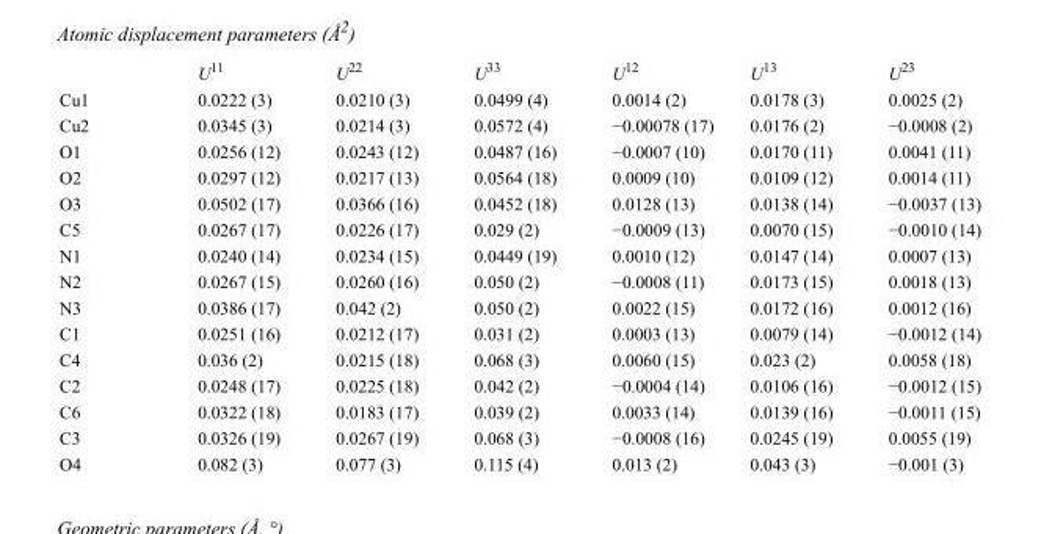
<table><thead><tr><td></td><td>U<sup>11</sup></td><td>U<sup>22</sup></td><td>U<sup>33</sup></td><td>U<sup>12</sup></td><td>U<sup>13</sup></td><td>U<sup>23</sup></td></tr></thead><tbody><tr><td>Cu1</td><td>0.0222 (3)</td><td>0.0210 (3)</td><td>0.0499 (4)</td><td>0.0014 (2)</td><td>0.0178 (3)</td><td>0.0025 (2)</td></tr><tr><td>Cu2</td><td>0.0345 (3)</td><td>0.0214 (3)</td><td>0.0572 (4)</td><td>−0.00078 (17)</td><td>0.0176 (2)</td><td>−0.0008 (2)</td></tr><tr><td>O1</td><td>0.0256 (12)</td><td>0.0243 (12)</td><td>0.0487 (16)</td><td>−0.0007 (10)</td><td>0.0170 (11)</td><td>0.0041 (11)</td></tr><tr><td>O2</td><td>0.0297 (12)</td><td>0.0217 (13)</td><td>0.0564 (18)</td><td>0.0009 (10)</td><td>0.0109 (12)</td><td>0.0014 (11)</td></tr><tr><td>O3</td><td>0.0502 (17)</td><td>0.0366 (16)</td><td>0.0452 (18)</td><td>0.0128 (13)</td><td>0.0138 (14)</td><td>−0.0037 (13)</td></tr><tr><td>C5</td><td>0.0267 (17)</td><td>0.0226 (17)</td><td>0.029 (2)</td><td>−0.0009 (13)</td><td>0.0070 (15)</td><td>−0.0010 (14)</td></tr><tr><td>N1</td><td>0.0240 (14)</td><td>0.0234 (15)</td><td>0.0449 (19)</td><td>0.0010 (12)</td><td>0.0147 (14)</td><td>0.0007 (13)</td></tr><tr><td>N2</td><td>0.0267 (15)</td><td>0.0260 (16)</td><td>0.050 (2)</td><td>−0.0008 (11)</td><td>0.0173 (15)</td><td>0.0018 (13)</td></tr><tr><td>N3</td><td>0.0386 (17)</td><td>0.042 (2)</td><td>0.050 (2)</td><td>0.0022 (15)</td><td>0.0172 (16)</td><td>0.0012 (16)</td></tr><tr><td>C1</td><td>0.0251 (16)</td><td>0.0212 (17)</td><td>0.031 (2)</td><td>0.0003 (13)</td><td>0.0079 (14)</td><td>−0.0012 (14)</td></tr><tr><td>C4</td><td>0.036 (2)</td><td>0.0215 (18)</td><td>0.068 (3)</td><td>0.0060 (15)</td><td>0.023 (2)</td><td>0.0058 (18)</td></tr><tr><td>C2</td><td>0.0248 (17)</td><td>0.0225 (18)</td><td>0.042 (2)</td><td>−0.0004 (14)</td><td>0.0106 (16)</td><td>−0.0012 (15)</td></tr><tr><td>C6</td><td>0.0322 (18)</td><td>0.0183 (17)</td><td>0.039 (2)</td><td>0.0033 (14)</td><td>0.0139 (16)</td><td>−0.0011 (15)</td></tr><tr><td>C3</td><td>0.0326 (19)</td><td>0.0267 (19)</td><td>0.068 (3)</td><td>−0.0008 (16)</td><td>0.0245 (19)</td><td>0.0055 (19)</td></tr><tr><td>O4</td><td>0.082 (3)</td><td>0.077 (3)</td><td>0.115 (4)</td><td>0.013 (2)</td><td>0.043 (3)</td><td>−0.001 (3)</td></tr></tbody></table>